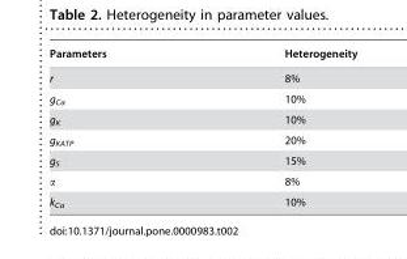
<table><thead><tr><td>Parameters</td><td>Heterogeneity</td></tr></thead><tbody><tr><td>r</td><td>8%</td></tr><tr><td>g<sub>Ca</sub></td><td>10%</td></tr><tr><td>g<sub>K</sub></td><td>10%</td></tr><tr><td>g<sub>KATP</sub></td><td>20%</td></tr><tr><td>g<sub>S</sub></td><td>15%</td></tr><tr><td>α</td><td>8%</td></tr><tr><td>k<sub>Ca</sub></td><td>10%</td></tr></tbody></table>